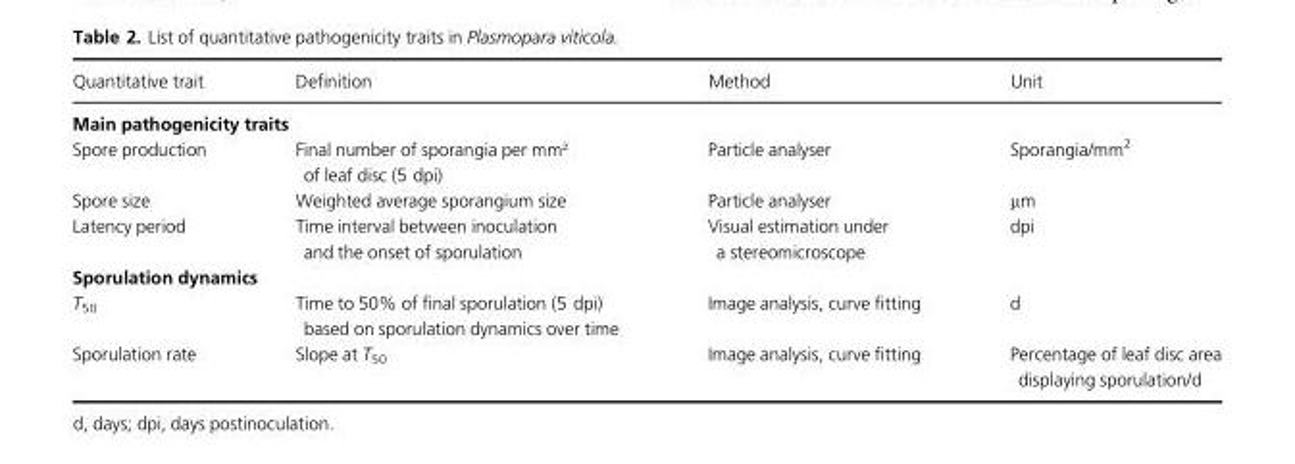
<table><thead><tr><td>Quantitative trait</td><td>Definition</td><td>Method</td><td>Unit</td></tr></thead><tbody><tr><td colspan="4">Main pathogenicity traits</td></tr><tr><td>Spore production</td><td>Final number of sporangia per mm² of leaf disc (5 dpi)</td><td>Particle analyser</td><td>Sporangia/mm<sup>2</sup></td></tr><tr><td>Spore size</td><td>Weighted average sporangium size</td><td>Particle analyser</td><td>μm</td></tr><tr><td>Latency period</td><td>Time interval between inoculation and the onset of sporulation</td><td>Visual estimation under a stereomicroscope</td><td>dpi</td></tr><tr><td colspan="4">Sporulation dynamics</td></tr><tr><td>T<sub>50</sub></td><td>Time to 50% of final sporulation (5 dpi) based on sporulation dynamics over time</td><td>Image analysis, curve fitting</td><td>d</td></tr><tr><td>Sporulation rate</td><td>Slope at T<sub>50</sub></td><td>Image analysis, curve fitting</td><td>Percentage of leaf disc area displaying sporulation/d</td></tr></tbody></table>